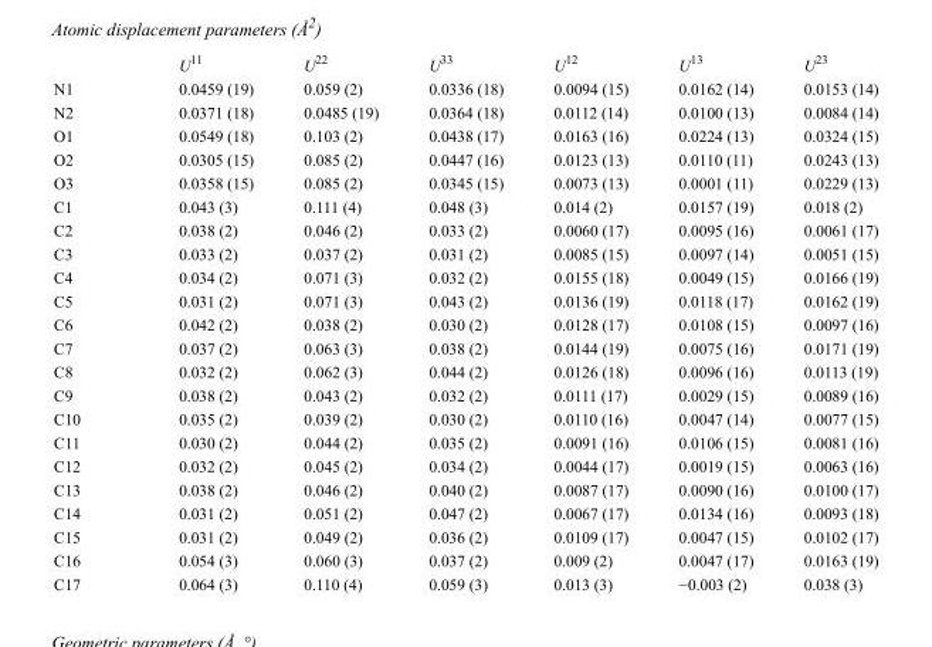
<table><thead><tr><td></td><td>U<sup>11</sup></td><td>U<sup>22</sup></td><td>U<sup>33</sup></td><td>U<sup>12</sup></td><td>U<sup>13</sup></td><td>U<sup>23</sup></td></tr></thead><tbody><tr><td>N1</td><td>0.0459 (19)</td><td>0.059 (2)</td><td>0.0336 (18)</td><td>0.0094 (15)</td><td>0.0162 (14)</td><td>0.0153 (14)</td></tr><tr><td>N2</td><td>0.0371 (18)</td><td>0.0485 (19)</td><td>0.0364 (18)</td><td>0.0112 (14)</td><td>0.0100 (13)</td><td>0.0084 (14)</td></tr><tr><td>O1</td><td>0.0549 (18)</td><td>0.103 (2)</td><td>0.0438 (17)</td><td>0.0163 (16)</td><td>0.0224 (13)</td><td>0.0324 (15)</td></tr><tr><td>O2</td><td>0.0305 (15)</td><td>0.085 (2)</td><td>0.0447 (16)</td><td>0.0123 (13)</td><td>0.0110 (11)</td><td>0.0243 (13)</td></tr><tr><td>O3</td><td>0.0358 (15)</td><td>0.085 (2)</td><td>0.0345 (15)</td><td>0.0073 (13)</td><td>0.0001 (11)</td><td>0.0229 (13)</td></tr><tr><td>C1</td><td>0.043 (3)</td><td>0.111 (4)</td><td>0.048 (3)</td><td>0.014 (2)</td><td>0.0157 (19)</td><td>0.018 (2)</td></tr><tr><td>C2</td><td>0.038 (2)</td><td>0.046 (2)</td><td>0.033 (2)</td><td>0.0060 (17)</td><td>0.0095 (16)</td><td>0.0061 (17)</td></tr><tr><td>C3</td><td>0.033 (2)</td><td>0.037 (2)</td><td>0.031 (2)</td><td>0.0085 (15)</td><td>0.0097 (14)</td><td>0.0051 (15)</td></tr><tr><td>C4</td><td>0.034 (2)</td><td>0.071 (3)</td><td>0.032 (2)</td><td>0.0155 (18)</td><td>0.0049 (15)</td><td>0.0166 (19)</td></tr><tr><td>C5</td><td>0.031 (2)</td><td>0.071 (3)</td><td>0.043 (2)</td><td>0.0136 (19)</td><td>0.0118 (17)</td><td>0.0162 (19)</td></tr><tr><td>C6</td><td>0.042 (2)</td><td>0.038 (2)</td><td>0.030 (2)</td><td>0.0128 (17)</td><td>0.0108 (15)</td><td>0.0097 (16)</td></tr><tr><td>C7</td><td>0.037 (2)</td><td>0.063 (3)</td><td>0.038 (2)</td><td>0.0144 (19)</td><td>0.0075 (16)</td><td>0.0171 (19)</td></tr><tr><td>C8</td><td>0.032 (2)</td><td>0.062 (3)</td><td>0.044 (2)</td><td>0.0126 (18)</td><td>0.0096 (16)</td><td>0.0113 (19)</td></tr><tr><td>C9</td><td>0.038 (2)</td><td>0.043 (2)</td><td>0.032 (2)</td><td>0.0111 (17)</td><td>0.0029 (15)</td><td>0.0089 (16)</td></tr><tr><td>C10</td><td>0.035 (2)</td><td>0.039 (2)</td><td>0.030 (2)</td><td>0.0110 (16)</td><td>0.0047 (14)</td><td>0.0077 (15)</td></tr><tr><td>C11</td><td>0.030 (2)</td><td>0.044 (2)</td><td>0.035 (2)</td><td>0.0091 (16)</td><td>0.0106 (15)</td><td>0.0081 (16)</td></tr><tr><td>C12</td><td>0.032 (2)</td><td>0.045 (2)</td><td>0.034 (2)</td><td>0.0044 (17)</td><td>0.0019 (15)</td><td>0.0063 (16)</td></tr><tr><td>C13</td><td>0.038 (2)</td><td>0.046 (2)</td><td>0.040 (2)</td><td>0.0087 (17)</td><td>0.0090 (16)</td><td>0.0100 (17)</td></tr><tr><td>C14</td><td>0.031 (2)</td><td>0.051 (2)</td><td>0.047 (2)</td><td>0.0067 (17)</td><td>0.0134 (16)</td><td>0.0093 (18)</td></tr><tr><td>C15</td><td>0.031 (2)</td><td>0.049 (2)</td><td>0.036 (2)</td><td>0.0109 (17)</td><td>0.0047 (15)</td><td>0.0102 (17)</td></tr><tr><td>C16</td><td>0.054 (3)</td><td>0.060 (3)</td><td>0.037 (2)</td><td>0.009 (2)</td><td>0.0047 (17)</td><td>0.0163 (19)</td></tr><tr><td>C17</td><td>0.064 (3)</td><td>0.110 (4)</td><td>0.059 (3)</td><td>0.013 (3)</td><td>−0.003 (2)</td><td>0.038 (3)</td></tr></tbody></table>